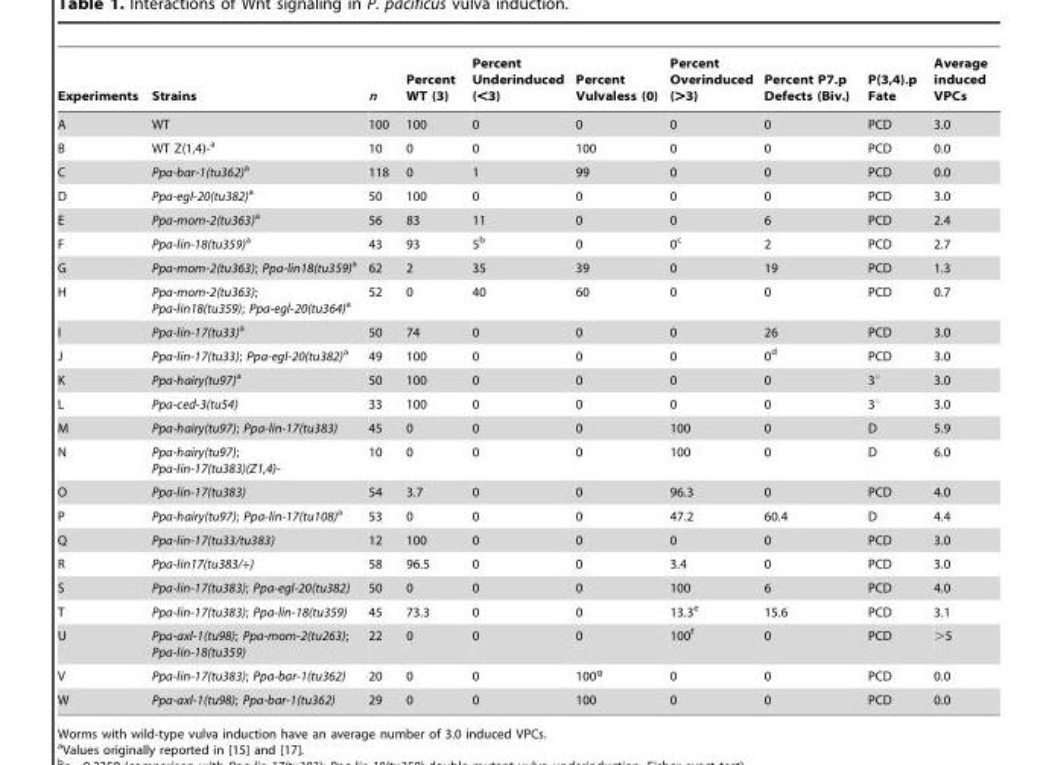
<table><thead><tr><td>Experiments</td><td>Strains</td><td>n</td><td>Percent WT (3)</td><td>Percent Underinduced (&lt;3)</td><td>Percent Vulvaless (0)</td><td>Percent Overinduced (&gt;3)</td><td>Percent P7.p Defects (Biv.)</td><td>P(3,4).p Fate</td><td>Average induced VPCs</td></tr></thead><tbody><tr><td>A</td><td>WT</td><td>100</td><td>100</td><td>0</td><td>0</td><td>0</td><td>0</td><td>PCD</td><td>3.0</td></tr><tr><td>B</td><td>WT Z(1,4)-a</td><td>10</td><td>0</td><td>0</td><td>100</td><td>0</td><td>0</td><td>PCD</td><td>0.0</td></tr><tr><td>C</td><td>Ppa-bar-1(tu362)a</td><td>118</td><td>0</td><td>1</td><td>99</td><td>0</td><td>0</td><td>PCD</td><td>0.0</td></tr><tr><td>D</td><td>Ppa-egl-20(tu382)a</td><td>50</td><td>100</td><td>0</td><td>0</td><td>0</td><td>0</td><td>PCD</td><td>3.0</td></tr><tr><td>E</td><td>Ppa-mom-2(tu363)a</td><td>56</td><td>83</td><td>11</td><td>0</td><td>0</td><td>6</td><td>PCD</td><td>2.4</td></tr><tr><td>F</td><td>Ppa-lin-18(tu359)a</td><td>43</td><td>93</td><td>5<sup>b</sup></td><td>0</td><td>0<sup>c</sup></td><td>2</td><td>PCD</td><td>2.7</td></tr><tr><td>G</td><td>Ppa-mom-2(tu363); Ppa-lin18(tu359)a</td><td>62</td><td>2</td><td>35</td><td>39</td><td>0</td><td>19</td><td>PCD</td><td>1.3</td></tr><tr><td>H</td><td>Ppa-mom-2(tu363); Ppa-lin18(tu359); Ppa-egl-20(tu364)a</td><td>52</td><td>0</td><td>40</td><td>60</td><td>0</td><td>0</td><td>PCD</td><td>0.7</td></tr><tr><td>I</td><td>Ppa-lin-17(tu33)a</td><td>50</td><td>74</td><td>0</td><td>0</td><td>0</td><td>26</td><td>PCD</td><td>3.0</td></tr><tr><td>J</td><td>Ppa-lin-17(tu33); Ppa-egl-20(tu382)a</td><td>49</td><td>100</td><td>0</td><td>0</td><td>0</td><td>0<sup>d</sup></td><td>PCD</td><td>3.0</td></tr><tr><td>K</td><td>Ppa-hairy(tu97)a</td><td>50</td><td>100</td><td>0</td><td>0</td><td>0</td><td>0</td><td>3°</td><td>3.0</td></tr><tr><td>L</td><td>Ppa-ced-3(tu54)</td><td>33</td><td>100</td><td>0</td><td>0</td><td>0</td><td>0</td><td>3°</td><td>3.0</td></tr><tr><td>M</td><td>Ppa-hairy(tu97); Ppa-lin-17(tu383)</td><td>45</td><td>0</td><td>0</td><td>0</td><td>100</td><td>0</td><td>D</td><td>5.9</td></tr><tr><td>N</td><td>Ppa-hairy(tu97); Ppa-lin-17(tu383)(Z1,4)-</td><td>10</td><td>0</td><td>0</td><td>0</td><td>100</td><td>0</td><td>D</td><td>6.0</td></tr><tr><td>O</td><td>Ppa-lin-17(tu383)</td><td>54</td><td>3.7</td><td>0</td><td>0</td><td>96.3</td><td>0</td><td>PCD</td><td>4.0</td></tr><tr><td>P</td><td>Ppa-hairy(tu97); Ppa-lin-17(tu108)a</td><td>53</td><td>0</td><td>0</td><td>0</td><td>47.2</td><td>60.4</td><td>D</td><td>4.4</td></tr><tr><td>Q</td><td>Ppa-lin-17(tu33/tu383)</td><td>12</td><td>100</td><td>0</td><td>0</td><td>0</td><td>0</td><td>PCD</td><td>3.0</td></tr><tr><td>R</td><td>Ppa-lin17(tu383/+)</td><td>58</td><td>96.5</td><td>0</td><td>0</td><td>3.4</td><td>0</td><td>PCD</td><td>3.0</td></tr><tr><td>S</td><td>Ppa-lin-17(tu383); Ppa-egl-20(tu382)</td><td>50</td><td>0</td><td>0</td><td>0</td><td>100</td><td>6</td><td>PCD</td><td>4.0</td></tr><tr><td>T</td><td>Ppa-lin-17(tu383); Ppa-lin-18(tu359)</td><td>45</td><td>73.3</td><td>0</td><td>0</td><td>13.3<sup>e</sup></td><td>15.6</td><td>PCD</td><td>3.1</td></tr><tr><td>U</td><td>Ppa-axl-1(tu98); Ppa-mom-2(tu263); Ppa-lin-18(tu359)</td><td>22</td><td>0</td><td>0</td><td>0</td><td>100<sup>f</sup></td><td>0</td><td>PCD</td><td>&gt;5</td></tr><tr><td>V</td><td>Ppa-lin-17(tu383); Ppa-bar-1(tu362)</td><td>20</td><td>0</td><td>0</td><td>100<sup>g</sup></td><td>0</td><td>0</td><td>PCD</td><td>0.0</td></tr><tr><td>W</td><td>Ppa-axl-1(tu98); Ppa-bar-1(tu362)</td><td>29</td><td>0</td><td>0</td><td>100</td><td>0</td><td>0</td><td>PCD</td><td>0.0</td></tr></tbody></table>